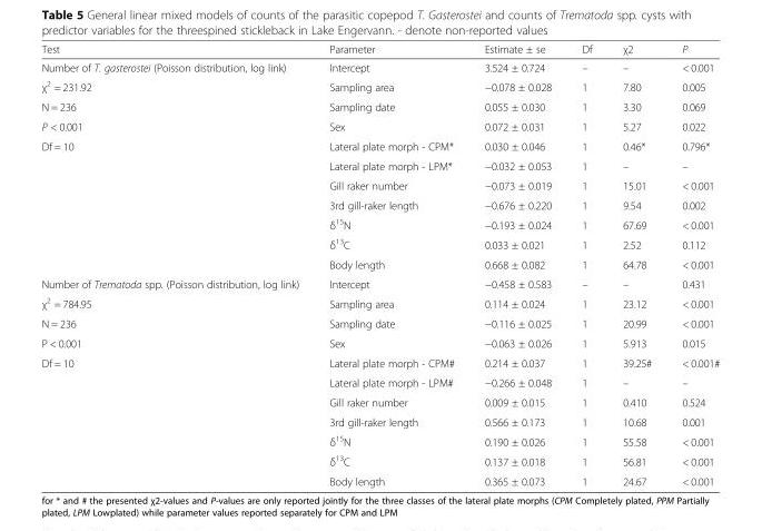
<table><thead><tr><td>Test</td><td>Parameter</td><td>Estimate ± se</td><td>Df</td><td>χ2</td><td>P</td></tr></thead><tbody><tr><td>Number of T. gasterostei (Poisson distribution, log link)</td><td>Intercept</td><td>3.524 ± 0.724</td><td>–</td><td>–</td><td>&lt; 0.001</td></tr><tr><td>χ<sup>2</sup> = 231.92</td><td>Sampling area</td><td>−0.078 ± 0.028</td><td>1</td><td>7.80</td><td>0.005</td></tr><tr><td>N = 236</td><td>Sampling date</td><td>0.055 ± 0.030</td><td>1</td><td>3.30</td><td>0.069</td></tr><tr><td>P &lt; 0.001</td><td>Sex</td><td>0.072 ± 0.031</td><td>1</td><td>5.27</td><td>0.022</td></tr><tr><td rowspan="7">Df = 10</td><td>Lateral plate morph - CPM*</td><td>0.030 ± 0.046</td><td>1</td><td>0.46*</td><td>0.796*</td></tr><tr><td>Lateral plate morph - LPM*</td><td>−0.032 ± 0.053</td><td>1</td><td>–</td><td>–</td></tr><tr><td>Gill raker number</td><td>−0.073 ± 0.019</td><td>1</td><td>15.01</td><td>&lt; 0.001</td></tr><tr><td>3rd gill-raker length</td><td>−0.676 ± 0.220</td><td>1</td><td>9.54</td><td>0.002</td></tr><tr><td>δ<sup>15</sup>N</td><td>−0.193 ± 0.024</td><td>1</td><td>67.69</td><td>&lt; 0.001</td></tr><tr><td>δ<sup>13</sup>C</td><td>0.033 ± 0.021</td><td>1</td><td>2.52</td><td>0.112</td></tr><tr><td>Body length</td><td>0.668 ± 0.082</td><td>1</td><td>64.78</td><td>&lt; 0.001</td></tr><tr><td>Number of Trematoda spp. (Poisson distribution, log link)</td><td>Intercept</td><td>−0.458 ± 0.583</td><td>–</td><td>–</td><td>0.431</td></tr><tr><td>χ<sup>2</sup> = 784.95</td><td>Sampling area</td><td>0.114 ± 0.024</td><td>1</td><td>23.12</td><td>&lt; 0.001</td></tr><tr><td>N = 236</td><td>Sampling date</td><td>−0.116 ± 0.025</td><td>1</td><td>20.99</td><td>&lt; 0.001</td></tr><tr><td>P &lt; 0.001</td><td>Sex</td><td>−0.063 ± 0.026</td><td>1</td><td>5.913</td><td>0.015</td></tr><tr><td rowspan="7">Df = 10</td><td>Lateral plate morph - CPM#</td><td>0.214 ± 0.037</td><td>1</td><td>39.25#</td><td>&lt; 0.001#</td></tr><tr><td>Lateral plate morph - LPM#</td><td>−0.266 ± 0.048</td><td>1</td><td>–</td><td>–</td></tr><tr><td>Gill raker number</td><td>0.009 ± 0.015</td><td>1</td><td>0.410</td><td>0.524</td></tr><tr><td>3rd gill-raker length</td><td>0.566 ± 0.173</td><td>1</td><td>10.68</td><td>0.001</td></tr><tr><td>δ<sup>15</sup>N</td><td>0.190 ± 0.026</td><td>1</td><td>55.58</td><td>&lt; 0.001</td></tr><tr><td>δ<sup>13</sup>C</td><td>0.137 ± 0.018</td><td>1</td><td>56.81</td><td>&lt; 0.001</td></tr><tr><td>Body length</td><td>0.365 ± 0.073</td><td>1</td><td>24.67</td><td>&lt; 0.001</td></tr></tbody></table>